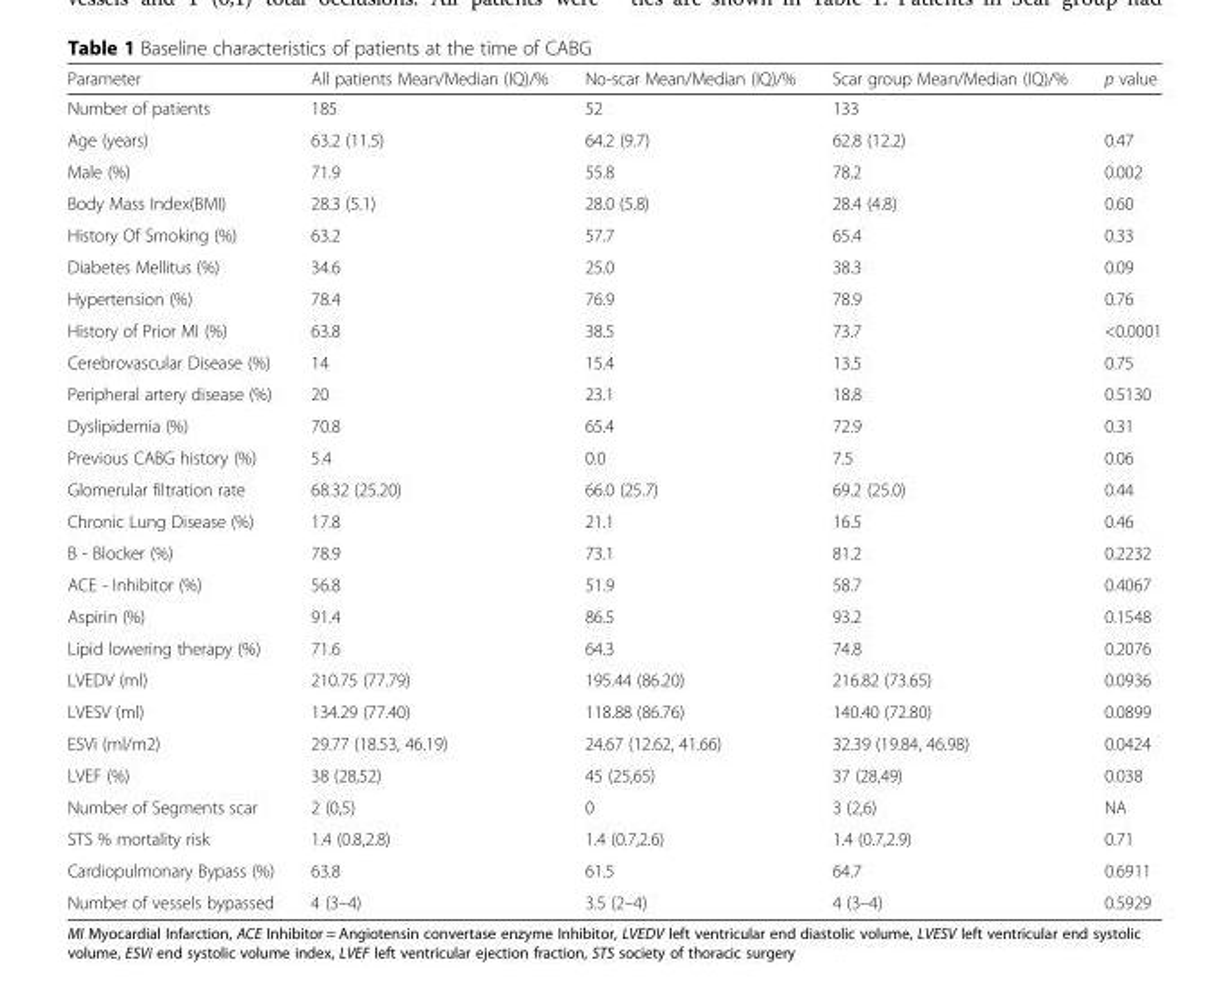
<table><thead><tr><td>Parameter</td><td>All patients Mean/Median (IQ)/%</td><td>No-scar Mean/Median (IQ)/%</td><td>Scar group Mean/Median (IQ)/%</td><td>p value</td></tr></thead><tbody><tr><td>Number of patients</td><td>185</td><td>52</td><td>133</td><td></td></tr><tr><td>Age (years)</td><td>63.2 (11.5)</td><td>64.2 (9.7)</td><td>62.8 (12.2)</td><td>0.47</td></tr><tr><td>Male (%)</td><td>71.9</td><td>55.8</td><td>78.2</td><td>0.002</td></tr><tr><td>Body Mass Index(BMI)</td><td>28.3 (5.1)</td><td>28.0 (5.8)</td><td>28.4 (4.8)</td><td>0.60</td></tr><tr><td>History Of Smoking (%)</td><td>63.2</td><td>57.7</td><td>65.4</td><td>0.33</td></tr><tr><td>Diabetes Mellitus (%)</td><td>34.6</td><td>25.0</td><td>38.3</td><td>0.09</td></tr><tr><td>Hypertension (%)</td><td>78.4</td><td>76.9</td><td>78.9</td><td>0.76</td></tr><tr><td>History of Prior MI (%)</td><td>63.8</td><td>38.5</td><td>73.7</td><td>&lt;0.0001</td></tr><tr><td>Cerebrovascular Disease (%)</td><td>14</td><td>15.4</td><td>13.5</td><td>0.75</td></tr><tr><td>Peripheral artery disease (%)</td><td>20</td><td>23.1</td><td>18.8</td><td>0.5130</td></tr><tr><td>Dyslipidemia (%)</td><td>70.8</td><td>65.4</td><td>72.9</td><td>0.31</td></tr><tr><td>Previous CABG history (%)</td><td>5.4</td><td>0.0</td><td>7.5</td><td>0.06</td></tr><tr><td>Glomerular filtration rate</td><td>68.32 (25.20)</td><td>66.0 (25.7)</td><td>69.2 (25.0)</td><td>0.44</td></tr><tr><td>Chronic Lung Disease (%)</td><td>17.8</td><td>21.1</td><td>16.5</td><td>0.46</td></tr><tr><td>B - Blocker (%)</td><td>78.9</td><td>73.1</td><td>81.2</td><td>0.2232</td></tr><tr><td>ACE - Inhibitor (%)</td><td>56.8</td><td>51.9</td><td>58.7</td><td>0.4067</td></tr><tr><td>Aspirin (%)</td><td>91.4</td><td>86.5</td><td>93.2</td><td>0.1548</td></tr><tr><td>Lipid lowering therapy (%)</td><td>71.6</td><td>64.3</td><td>74.8</td><td>0.2076</td></tr><tr><td>LVEDV (ml)</td><td>210.75 (77.79)</td><td>195.44 (86.20)</td><td>216.82 (73.65)</td><td>0.0936</td></tr><tr><td>LVESV (ml)</td><td>134.29 (77.40)</td><td>118.88 (86.76)</td><td>140.40 (72.80)</td><td>0.0899</td></tr><tr><td>ESVi (ml/m2)</td><td>29.77 (18.53, 46.19)</td><td>24.67 (12.62, 41.66)</td><td>32.39 (19.84, 46.98)</td><td>0.0424</td></tr><tr><td>LVEF (%)</td><td>38 (28,52)</td><td>45 (25,65)</td><td>37 (28,49)</td><td>0.038</td></tr><tr><td>Number of Segments scar</td><td>2 (0,5)</td><td>0</td><td>3 (2,6)</td><td>NA</td></tr><tr><td>STS % mortality risk</td><td>1.4 (0.8,2.8)</td><td>1.4 (0.7,2.6)</td><td>1.4 (0.7,2.9)</td><td>0.71</td></tr><tr><td>Cardiopulmonary Bypass (%)</td><td>63.8</td><td>61.5</td><td>64.7</td><td>0.6911</td></tr><tr><td>Number of vessels bypassed</td><td>4 (3–4)</td><td>3.5 (2–4)</td><td>4 (3–4)</td><td>0.5929</td></tr></tbody></table>